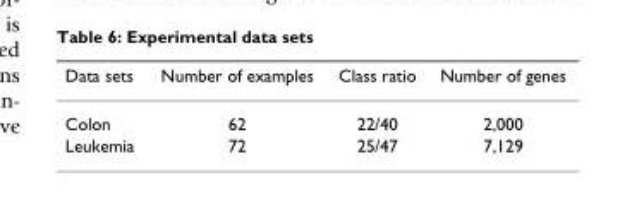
<table><thead><tr><td>Data sets</td><td>Number of examples</td><td>Class ratio</td><td>Number of genes</td></tr></thead><tbody><tr><td>Colon</td><td>62</td><td>22/40</td><td>2,000</td></tr><tr><td>Leukemia</td><td>72</td><td>25/47</td><td>7,129</td></tr></tbody></table>